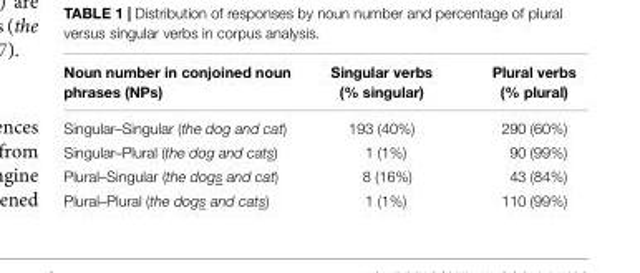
<table><thead><tr><td>Noun number in conjoined noun phrases (NPs)</td><td>Singular verbs (% singular)</td><td>Plural verbs (% plural)</td></tr></thead><tbody><tr><td>Singular–Singular (the dog and cat)</td><td>193 (40%)</td><td>290 (60%)</td></tr><tr><td>Singular–Plural (the dog and cats)</td><td>1 (1%)</td><td>90 (99%)</td></tr><tr><td>Plural–Singular (the dogs and cat)</td><td>8 (16%)</td><td>43 (84%)</td></tr><tr><td>Plural–Plural (the dogs and cats)</td><td>1 (1%)</td><td>110 (99%)</td></tr></tbody></table>